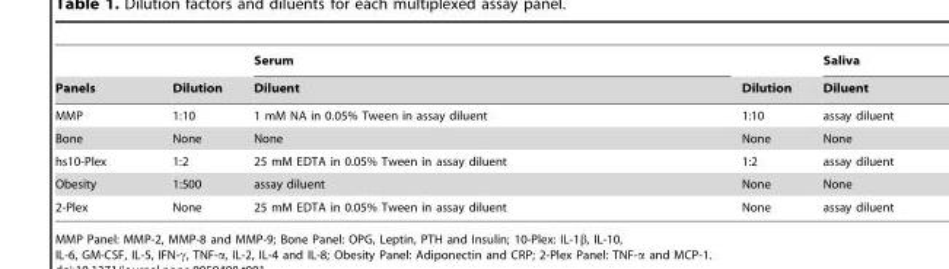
<table><thead><tr><td rowspan="2">Panels</td><td rowspan="2">Dilution</td><td rowspan="2">Serum Diluent</td><td rowspan="2">Dilution</td><td rowspan="2">Saliva Diluent</td></tr><tr></tr></thead><tbody><tr><td>MMP</td><td>1:10</td><td>1 mM NA in 0.05% Tween in assay diluent</td><td>1:10</td><td>assay diluent</td></tr><tr><td>Bone</td><td>None</td><td>None</td><td>None</td><td>None</td></tr><tr><td>hs10-Plex</td><td>1:2</td><td>25 mM EDTA in 0.05% Tween in assay diluent</td><td>1:2</td><td>assay diluent</td></tr><tr><td>Obesity</td><td>1:500</td><td>assay diluent</td><td>None</td><td>None</td></tr><tr><td>2-Plex</td><td>None</td><td>25 mM EDTA in 0.05% Tween in assay diluent</td><td>None</td><td>assay diluent</td></tr></tbody></table>